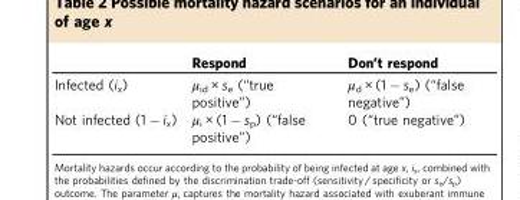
<table><thead><tr><td></td><td>Respond</td><td>Don’t respond</td></tr></thead><tbody><tr><td>Infected (i<sub>x</sub>)</td><td>μ<sub>id</sub> × s<sub>e</sub> (“true positive”)</td><td>μ<sub>d</sub> × (1 − s<sub>e</sub>) (“false negative”)</td></tr><tr><td>Not infected (1 − i<sub>x</sub>)</td><td>μ<sub>i</sub> × (1 − s<sub>p</sub>) (“false positive”)</td><td>0 (“true negative”)</td></tr></tbody></table>